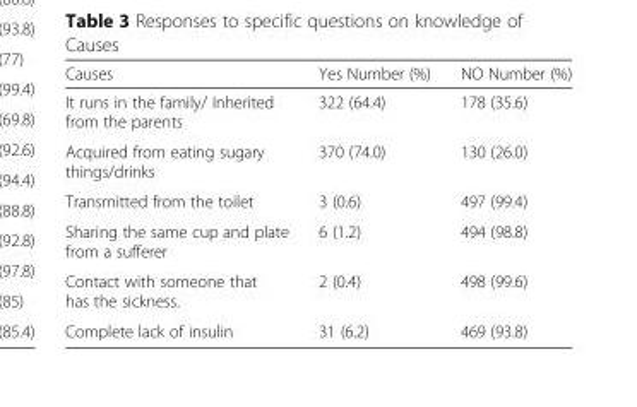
<table><thead><tr><td>Causes</td><td>Yes Number (%)</td><td>NO Number (%)</td></tr></thead><tbody><tr><td>It runs in the family/ Inherited from the parents</td><td>322 (64.4)</td><td>178 (35.6)</td></tr><tr><td>Acquired from eating sugary things/drinks</td><td>370 (74.0)</td><td>130 (26.0)</td></tr><tr><td>Transmitted from the toilet</td><td>3 (0.6)</td><td>497 (99.4)</td></tr><tr><td>Sharing the same cup and plate from a sufferer</td><td>6 (1.2)</td><td>494 (98.8)</td></tr><tr><td>Contact with someone that has the sickness.</td><td>2 (0.4)</td><td>498 (99.6)</td></tr><tr><td>Complete lack of insulin</td><td>31 (6.2)</td><td>469 (93.8)</td></tr></tbody></table>